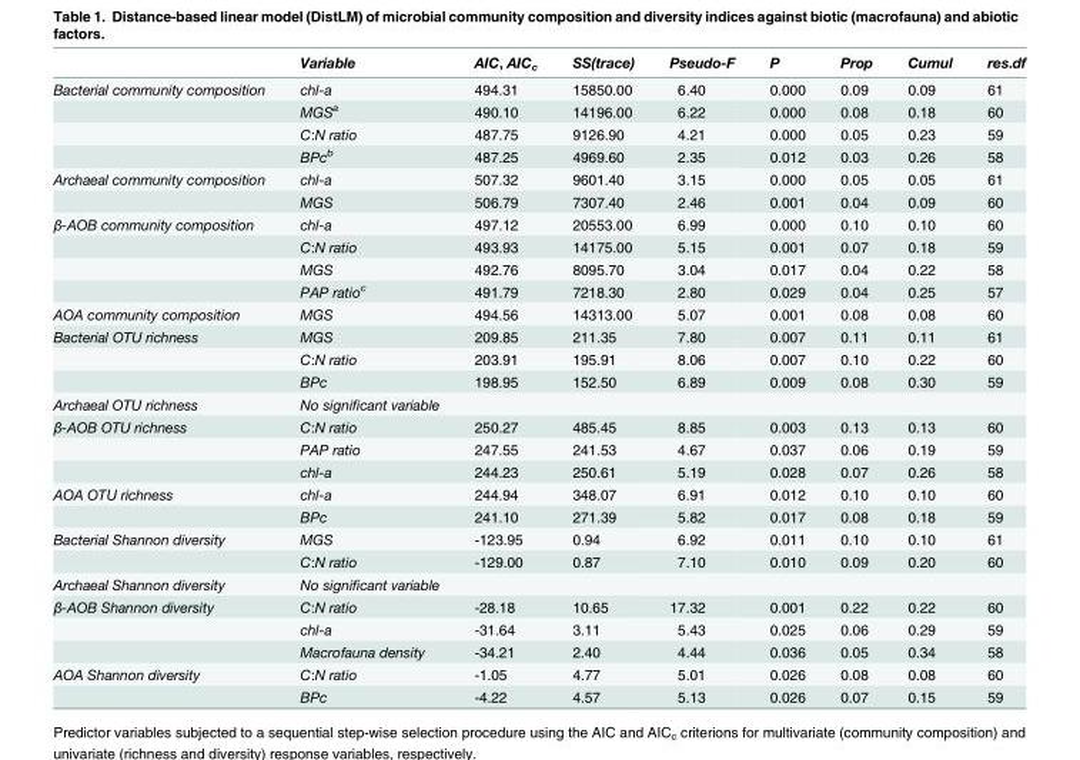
<table><thead><tr><td></td><td>Variable</td><td>AIC, AIC<sub>c</sub></td><td>SS(trace)</td><td>Pseudo-F</td><td>P</td><td>Prop</td><td>Cumul</td><td>res.df</td></tr></thead><tbody><tr><td rowspan="4">Bacterial community composition</td><td>chl-a</td><td>494.31</td><td>15850.00</td><td>6.40</td><td>0.000</td><td>0.09</td><td>0.09</td><td>61</td></tr><tr><td>MGS<sup>a</sup></td><td>490.10</td><td>14196.00</td><td>6.22</td><td>0.000</td><td>0.08</td><td>0.18</td><td>60</td></tr><tr><td>C:N ratio</td><td>487.75</td><td>9126.90</td><td>4.21</td><td>0.000</td><td>0.05</td><td>0.23</td><td>59</td></tr><tr><td>BPc<sup>b</sup></td><td>487.25</td><td>4969.60</td><td>2.35</td><td>0.012</td><td>0.03</td><td>0.26</td><td>58</td></tr><tr><td rowspan="2">Archaeal community composition</td><td>chl-a</td><td>507.32</td><td>9601.40</td><td>3.15</td><td>0.000</td><td>0.05</td><td>0.05</td><td>61</td></tr><tr><td>MGS</td><td>506.79</td><td>7307.40</td><td>2.46</td><td>0.001</td><td>0.04</td><td>0.09</td><td>60</td></tr><tr><td rowspan="4">β-AOB community composition</td><td>chl-a</td><td>497.12</td><td>20553.00</td><td>6.99</td><td>0.000</td><td>0.10</td><td>0.10</td><td>60</td></tr><tr><td>C:N ratio</td><td>493.93</td><td>14175.00</td><td>5.15</td><td>0.001</td><td>0.07</td><td>0.18</td><td>59</td></tr><tr><td>MGS</td><td>492.76</td><td>8095.70</td><td>3.04</td><td>0.017</td><td>0.04</td><td>0.22</td><td>58</td></tr><tr><td>PAP ratio<sup>c</sup></td><td>491.79</td><td>7218.30</td><td>2.80</td><td>0.029</td><td>0.04</td><td>0.25</td><td>57</td></tr><tr><td>AOA community composition</td><td>MGS</td><td>494.56</td><td>14313.00</td><td>5.07</td><td>0.001</td><td>0.08</td><td>0.08</td><td>60</td></tr><tr><td rowspan="3">Bacterial OTU richness</td><td>MGS</td><td>209.85</td><td>211.35</td><td>7.80</td><td>0.007</td><td>0.11</td><td>0.11</td><td>61</td></tr><tr><td>C:N ratio</td><td>203.91</td><td>195.91</td><td>8.06</td><td>0.007</td><td>0.10</td><td>0.22</td><td>60</td></tr><tr><td>BPc</td><td>198.95</td><td>152.50</td><td>6.89</td><td>0.009</td><td>0.08</td><td>0.30</td><td>59</td></tr><tr><td>Archaeal OTU richness</td><td>No significant variable</td><td></td><td></td><td></td><td></td><td></td><td></td><td></td></tr><tr><td rowspan="3">β-AOB OTU richness</td><td>C:N ratio</td><td>250.27</td><td>485.45</td><td>8.85</td><td>0.003</td><td>0.13</td><td>0.13</td><td>60</td></tr><tr><td>PAP ratio</td><td>247.55</td><td>241.53</td><td>4.67</td><td>0.037</td><td>0.06</td><td>0.19</td><td>59</td></tr><tr><td>chl-a</td><td>244.23</td><td>250.61</td><td>5.19</td><td>0.028</td><td>0.07</td><td>0.26</td><td>58</td></tr><tr><td rowspan="2">AOA OTU richness</td><td>chl-a</td><td>244.94</td><td>348.07</td><td>6.91</td><td>0.012</td><td>0.10</td><td>0.10</td><td>60</td></tr><tr><td>BPc</td><td>241.10</td><td>271.39</td><td>5.82</td><td>0.017</td><td>0.08</td><td>0.18</td><td>59</td></tr><tr><td rowspan="2">Bacterial Shannon diversity</td><td>MGS</td><td>-123.95</td><td>0.94</td><td>6.92</td><td>0.011</td><td>0.10</td><td>0.10</td><td>61</td></tr><tr><td>C:N ratio</td><td>-129.00</td><td>0.87</td><td>7.10</td><td>0.010</td><td>0.09</td><td>0.20</td><td>60</td></tr><tr><td>Archaeal Shannon diversity</td><td>No significant variable</td><td></td><td></td><td></td><td></td><td></td><td></td><td></td></tr><tr><td rowspan="3">β-AOB Shannon diversity</td><td>C:N ratio</td><td>-28.18</td><td>10.65</td><td>17.32</td><td>0.001</td><td>0.22</td><td>0.22</td><td>60</td></tr><tr><td>chl-a</td><td>-31.64</td><td>3.11</td><td>5.43</td><td>0.025</td><td>0.06</td><td>0.29</td><td>59</td></tr><tr><td>Macrofauna density</td><td>-34.21</td><td>2.40</td><td>4.44</td><td>0.036</td><td>0.05</td><td>0.34</td><td>58</td></tr><tr><td rowspan="2">AOA Shannon diversity</td><td>C:N ratio</td><td>-1.05</td><td>4.77</td><td>5.01</td><td>0.026</td><td>0.08</td><td>0.08</td><td>60</td></tr><tr><td>BPc</td><td>-4.22</td><td>4.57</td><td>5.13</td><td>0.026</td><td>0.07</td><td>0.15</td><td>59</td></tr></tbody></table>